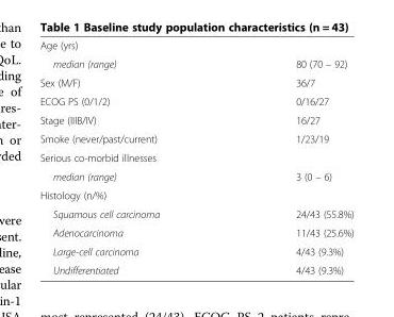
<table><tbody><tr><td colspan="2">Age (yrs)</td></tr><tr><td>median (range)</td><td>80 (70 – 92)</td></tr><tr><td>Sex (M/F)</td><td>36/7</td></tr><tr><td>ECOG PS (0/1/2)</td><td>0/16/27</td></tr><tr><td>Stage (IIIB/IV)</td><td>16/27</td></tr><tr><td>Smoke (never/past/current)</td><td>1/23/19</td></tr><tr><td colspan="2">Serious co-morbid illnesses</td></tr><tr><td>median (range)</td><td>3 (0 – 6)</td></tr><tr><td colspan="2">Histology (n/%)</td></tr><tr><td>Squamous cell carcinoma</td><td>24/43 (55.8%)</td></tr><tr><td>Adenocarcinoma</td><td>11/43 (25.6%)</td></tr><tr><td>Large-cell carcinoma</td><td>4/43 (9.3%)</td></tr><tr><td>Undifferentiated</td><td>4/43 (9.3%)</td></tr></tbody></table>